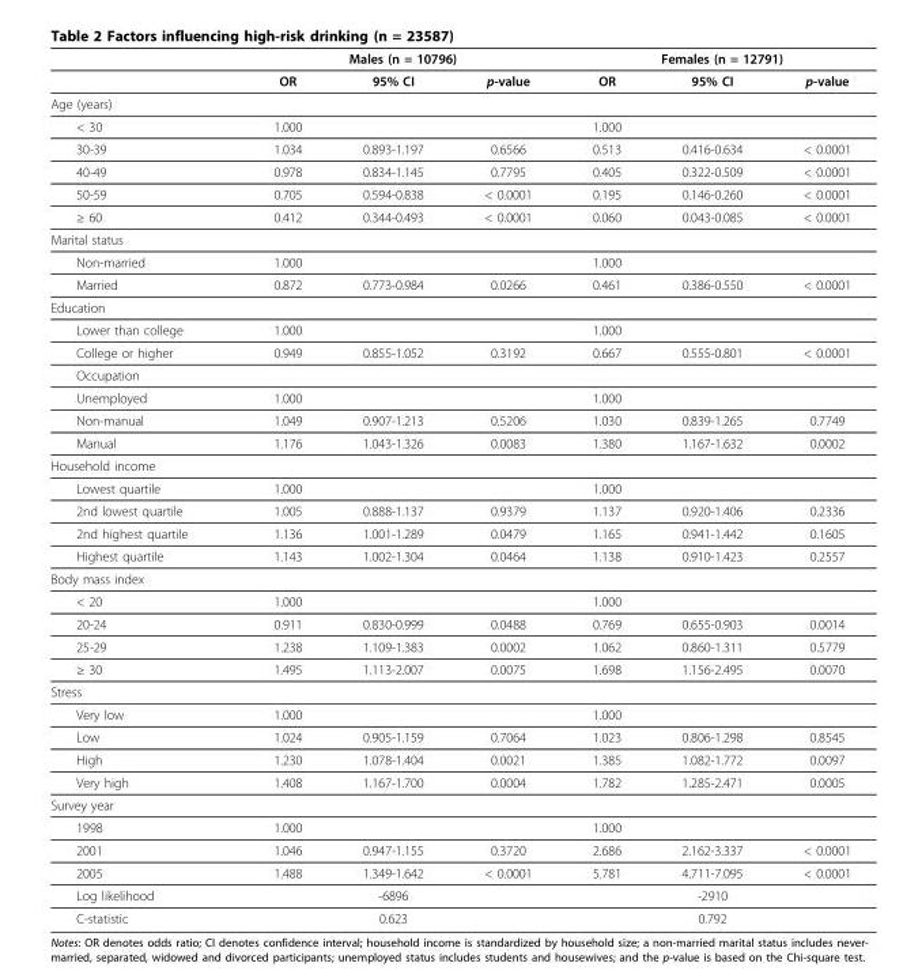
<table><thead><tr><td rowspan="2"></td><td colspan="3">Males (n = 10796)</td><td colspan="3">Females (n = 12791)</td></tr><tr><td>OR</td><td>95% CI</td><td>p-value</td><td>OR</td><td>95% CI</td><td>p-value</td></tr></thead><tbody><tr><td colspan="7">Age (years)</td></tr><tr><td>&lt; 30</td><td>1.000</td><td></td><td></td><td>1.000</td><td></td><td></td></tr><tr><td>30-39</td><td>1.034</td><td>0.893-1.197</td><td>0.6566</td><td>0.513</td><td>0.416-0.634</td><td>&lt; 0.0001</td></tr><tr><td>40-49</td><td>0.978</td><td>0.834-1.145</td><td>0.7795</td><td>0.405</td><td>0.322-0.509</td><td>&lt; 0.0001</td></tr><tr><td>50-59</td><td>0.705</td><td>0.594-0.838</td><td>&lt; 0.0001</td><td>0.195</td><td>0.146-0.260</td><td>&lt; 0.0001</td></tr><tr><td>≥ 60</td><td>0.412</td><td>0.344-0.493</td><td>&lt; 0.0001</td><td>0.060</td><td>0.043-0.085</td><td>&lt; 0.0001</td></tr><tr><td colspan="7">Marital status</td></tr><tr><td>Non-married</td><td>1.000</td><td></td><td></td><td>1.000</td><td></td><td></td></tr><tr><td>Married</td><td>0.872</td><td>0.773-0.984</td><td>0.0266</td><td>0.461</td><td>0.386-0.550</td><td>&lt; 0.0001</td></tr><tr><td colspan="7">Education</td></tr><tr><td>Lower than college</td><td>1.000</td><td></td><td></td><td>1.000</td><td></td><td></td></tr><tr><td>College or higher</td><td>0.949</td><td>0.855-1.052</td><td>0.3192</td><td>0.667</td><td>0.555-0.801</td><td>&lt; 0.0001</td></tr><tr><td colspan="7">Occupation</td></tr><tr><td>Unemployed</td><td>1.000</td><td></td><td></td><td>1.000</td><td></td><td></td></tr><tr><td>Non-manual</td><td>1.049</td><td>0.907-1.213</td><td>0.5206</td><td>1.030</td><td>0.839-1.265</td><td>0.7749</td></tr><tr><td>Manual</td><td>1.176</td><td>1.043-1.326</td><td>0.0083</td><td>1.380</td><td>1.167-1.632</td><td>0.0002</td></tr><tr><td colspan="7">Household income</td></tr><tr><td>Lowest quartile</td><td>1.000</td><td></td><td></td><td>1.000</td><td></td><td></td></tr><tr><td>2nd lowest quartile</td><td>1.005</td><td>0.888-1.137</td><td>0.9379</td><td>1.137</td><td>0.920-1.406</td><td>0.2336</td></tr><tr><td>2nd highest quartile</td><td>1.136</td><td>1.001-1.289</td><td>0.0479</td><td>1.165</td><td>0.941-1.442</td><td>0.1605</td></tr><tr><td>Highest quartile</td><td>1.143</td><td>1.002-1.304</td><td>0.0464</td><td>1.138</td><td>0.910-1.423</td><td>0.2557</td></tr><tr><td colspan="7">Body mass index</td></tr><tr><td>&lt; 20</td><td>1.000</td><td></td><td></td><td>1.000</td><td></td><td></td></tr><tr><td>20-24</td><td>0.911</td><td>0.830-0.999</td><td>0.0488</td><td>0.769</td><td>0.655-0.903</td><td>0.0014</td></tr><tr><td>25-29</td><td>1.238</td><td>1.109-1.383</td><td>0.0002</td><td>1.062</td><td>0.860-1.311</td><td>0.5779</td></tr><tr><td>≥ 30</td><td>1.495</td><td>1.113-2.007</td><td>0.0075</td><td>1.698</td><td>1.156-2.495</td><td>0.0070</td></tr><tr><td colspan="7">Stress</td></tr><tr><td>Very low</td><td>1.000</td><td></td><td></td><td>1.000</td><td></td><td></td></tr><tr><td>Low</td><td>1.024</td><td>0.905-1.159</td><td>0.7064</td><td>1.023</td><td>0.806-1.298</td><td>0.8545</td></tr><tr><td>High</td><td>1.230</td><td>1.078-1.404</td><td>0.0021</td><td>1.385</td><td>1.082-1.772</td><td>0.0097</td></tr><tr><td>Very high</td><td>1.408</td><td>1.167-1.700</td><td>0.0004</td><td>1.782</td><td>1.285-2.471</td><td>0.0005</td></tr><tr><td colspan="7">Survey year</td></tr><tr><td>1998</td><td>1.000</td><td></td><td></td><td>1.000</td><td></td><td></td></tr><tr><td>2001</td><td>1.046</td><td>0.947-1.155</td><td>0.3720</td><td>2.686</td><td>2.162-3.337</td><td>&lt; 0.0001</td></tr><tr><td>2005</td><td>1.488</td><td>1.349-1.642</td><td>&lt; 0.0001</td><td>5.781</td><td>4.711-7.095</td><td>&lt; 0.0001</td></tr><tr><td>Log likelihood</td><td></td><td>-6896</td><td></td><td></td><td>-2910</td><td></td></tr><tr><td>C-statistic</td><td></td><td>0.623</td><td></td><td></td><td>0.792</td><td></td></tr></tbody></table>